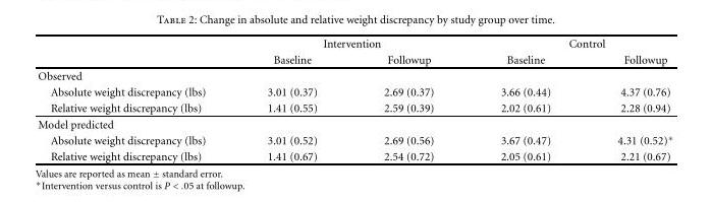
<table><thead><tr><td rowspan="2"></td><td colspan="2">Intervention</td><td colspan="2">Control</td></tr><tr><td>Baseline</td><td>Followup</td><td>Baseline</td><td>Followup</td></tr></thead><tbody><tr><td colspan="5">Observed</td></tr><tr><td>Absolute weight discrepancy (lbs)</td><td>3.01 (0.37)</td><td>2.69 (0.37)</td><td>3.66 (0.44)</td><td>4.37 (0.76)</td></tr><tr><td>Relative weight discrepancy (lbs)</td><td>1.41 (0.55)</td><td>2.59 (0.39)</td><td>2.02 (0.61)</td><td>2.28 (0.94)</td></tr><tr><td colspan="5">Model predicted</td></tr><tr><td>Absolute weight discrepancy (lbs)</td><td>3.01 (0.52)</td><td>2.69 (0.56)</td><td>3.67 (0.47)</td><td>4.31 (0.52)∗</td></tr><tr><td>Relative weight discrepancy (lbs)</td><td>1.41 (0.67)</td><td>2.54 (0.72)</td><td>2.05 (0.61)</td><td>2.21 (0.67)</td></tr></tbody></table>